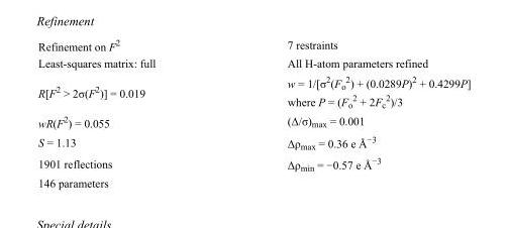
<table><tbody><tr><td>Refinement on F<sup>2</sup></td><td>7 restraints</td></tr><tr><td>Least-squares matrix: full</td><td>All H-atom parameters refined</td></tr><tr><td>R[F<sup>2</sup> &gt; 2σ(F<sup>2</sup>)] = 0.019</td><td>w = 1/[σ<sup>2</sup>(F<sub>o</sub> <sup>2</sup>) + (0.0289P)<sup>2</sup> + 0.4299P] where P = (F<sub>o</sub> <sup>2</sup> + 2F<sub>c</sub> <sup>2</sup>)/3</td></tr><tr><td>wR(F<sup>2</sup>) = 0.055</td><td>(Δ/σ)<sub>max</sub> = 0.001</td></tr><tr><td>S = 1.13</td><td>Δρ<sub>max</sub> = 0.36 e Å<sup>−3</sup></td></tr><tr><td>1901 reflections</td><td>Δρ<sub>min</sub> = −0.57 e Å<sup>−3</sup></td></tr><tr><td>146 parameters</td><td></td></tr></tbody></table>